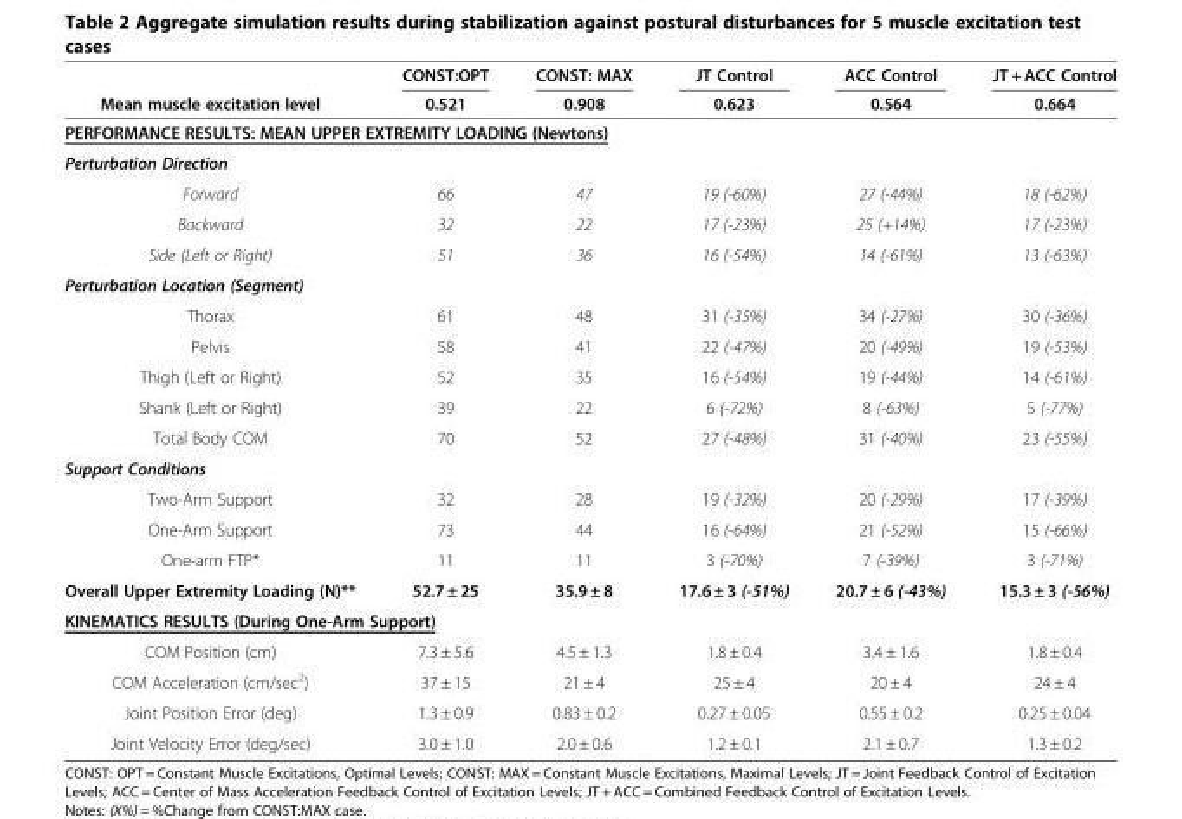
<table><thead><tr><td rowspan="2">Mean muscle excitation level</td><td rowspan="2">CONST:OPT 0.521</td><td rowspan="2">CONST: MAX 0.908</td><td rowspan="2">JT Control 0.623</td><td rowspan="2">ACC Control 0.564</td><td rowspan="2">JT + ACC Control 0.664</td></tr><tr></tr></thead><tbody><tr><td colspan="6">PERFORMANCE RESULTS: MEAN UPPER EXTREMITY LOADING (Newtons)</td></tr><tr><td colspan="6">Perturbation Direction</td></tr><tr><td>Forward</td><td>66</td><td>47</td><td>19 (-60%)</td><td>27 (-44%)</td><td>18 (-62%)</td></tr><tr><td>Backward</td><td>32</td><td>22</td><td>17 (-23%)</td><td>25 (+14%)</td><td>17 (-23%)</td></tr><tr><td>Side (Left or Right)</td><td>51</td><td>36</td><td>16 (-54%)</td><td>14 (-61%)</td><td>13 (-63%)</td></tr><tr><td colspan="6">Perturbation Location (Segment)</td></tr><tr><td>Thorax</td><td>61</td><td>48</td><td>31 (-35%)</td><td>34 (-27%)</td><td>30 (-36%)</td></tr><tr><td>Pelvis</td><td>58</td><td>41</td><td>22 (-47%)</td><td>20 (-49%)</td><td>19 (-53%)</td></tr><tr><td>Thigh (Left or Right)</td><td>52</td><td>35</td><td>16 (-54%)</td><td>19 (-44%)</td><td>14 (-61%)</td></tr><tr><td>Shank (Left or Right)</td><td>39</td><td>22</td><td>6 (-72%)</td><td>8 (-63%)</td><td>5 (-77%)</td></tr><tr><td>Total Body COM</td><td>70</td><td>52</td><td>27 (-48%)</td><td>31 (-40%)</td><td>23 (-55%)</td></tr><tr><td colspan="6">Support Conditions</td></tr><tr><td>Two-Arm Support</td><td>32</td><td>28</td><td>19 (-32%)</td><td>20 (-29%)</td><td>17 (-39%)</td></tr><tr><td>One-Arm Support</td><td>73</td><td>44</td><td>16 (-64%)</td><td>21 (-52%)</td><td>15 (-66%)</td></tr><tr><td>One-arm FTP*</td><td>11</td><td>11</td><td>3 (-70%)</td><td>7 (-39%)</td><td>3 (-71%)</td></tr><tr><td>Overall Upper Extremity Loading (N)**</td><td>52.7 ± 25</td><td>35.9 ± 8</td><td>17.6 ± 3 (-51%)</td><td>20.7 ± 6 (-43%)</td><td>15.3 ± 3 (-56%)</td></tr><tr><td colspan="6">KINEMATICS RESULTS (During One-Arm Support)</td></tr><tr><td>COM Position (cm)</td><td>7.3 ± 5.6</td><td>4.5 ± 1.3</td><td>1.8 ± 0.4</td><td>3.4 ± 1.6</td><td>1.8 ± 0.4</td></tr><tr><td>COM Acceleration (cm/sec<sup>2</sup>)</td><td>37 ± 15</td><td>21 ± 4</td><td>25 ± 4</td><td>20 ± 4</td><td>24 ± 4</td></tr><tr><td>Joint Position Error (deg)</td><td>1.3 ± 0.9</td><td>0.83 ± 0.2</td><td>0.27 ± 0.05</td><td>0.55 ± 0.2</td><td>0.25 ± 0.04</td></tr><tr><td>Joint Velocity Error (deg/sec)</td><td>3.0 ± 1.0</td><td>2.0 ± 0.6</td><td>1.2 ± 0.1</td><td>2.1 ± 0.7</td><td>1.3 ± 0.2</td></tr></tbody></table>